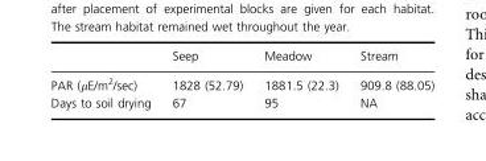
<table><thead><tr><td></td><td>Seep</td><td>Meadow</td><td>Stream</td></tr></thead><tbody><tr><td>PAR (μE/m<sup>2</sup>/sec)</td><td>1828 (52.79)</td><td>1881.5 (22.3)</td><td>909.8 (88.05)</td></tr><tr><td>Days to soil drying</td><td>67</td><td>95</td><td>NA</td></tr></tbody></table>